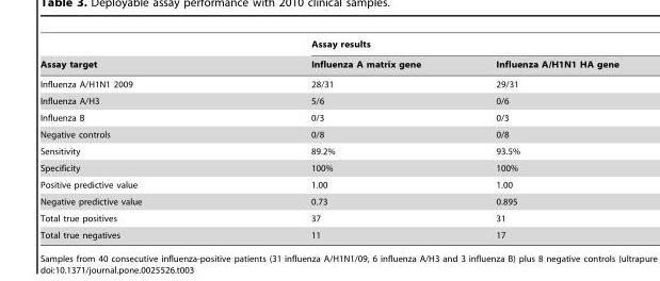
<table><thead><tr><td rowspan="2">Assay target</td><td colspan="2">Assay results</td></tr><tr><td>Influenza A matrix gene</td><td>Influenza A/H1N1 HA gene</td></tr></thead><tbody><tr><td>Influenza A/H1N1 2009</td><td>28/31</td><td>29/31</td></tr><tr><td>Influenza A/H3</td><td>5/6</td><td>0/6</td></tr><tr><td>Influenza B</td><td>0/3</td><td>0/3</td></tr><tr><td>Negative controls</td><td>0/8</td><td>0/8</td></tr><tr><td>Sensitivity</td><td>89.2%</td><td>93.5%</td></tr><tr><td>Specificity</td><td>100%</td><td>100%</td></tr><tr><td>Positive predictive value</td><td>1.00</td><td>1.00</td></tr><tr><td>Negative predictive value</td><td>0.73</td><td>0.895</td></tr><tr><td>Total true positives</td><td>37</td><td>31</td></tr><tr><td>Total true negatives</td><td>11</td><td>17</td></tr></tbody></table>